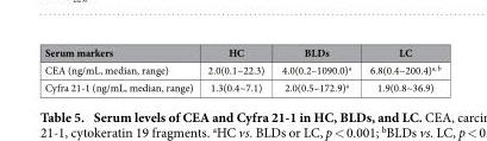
<table><thead><tr><td>Serum markers</td><td>HC</td><td>BLDs</td><td>LC</td></tr></thead><tbody><tr><td>CEA (ng/mL, median, range)</td><td>2.0(0.1~22.3)</td><td>4.0(0.2–1090.0)<sup>a</sup></td><td>6.8(0.4~200.4)a, b</td></tr><tr><td>Cyfra 21-1 (ng/mL, median, range)</td><td>1.3(0.4~7.1)</td><td>2.0(0.5–172.9)<sup>a</sup></td><td>1.9(0.8~36.9)</td></tr></tbody></table>